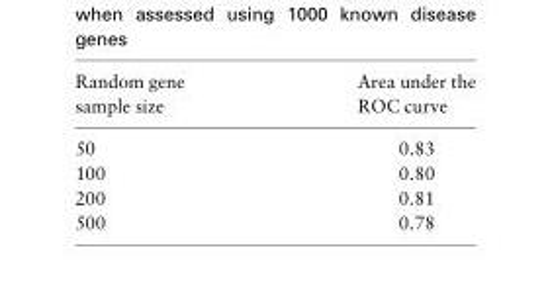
<table><thead><tr><td>Random gene sample size</td><td>Area under the ROC curve</td></tr></thead><tbody><tr><td>50</td><td>0.83</td></tr><tr><td>100</td><td>0.80</td></tr><tr><td>200</td><td>0.81</td></tr><tr><td>500</td><td>0.78</td></tr></tbody></table>